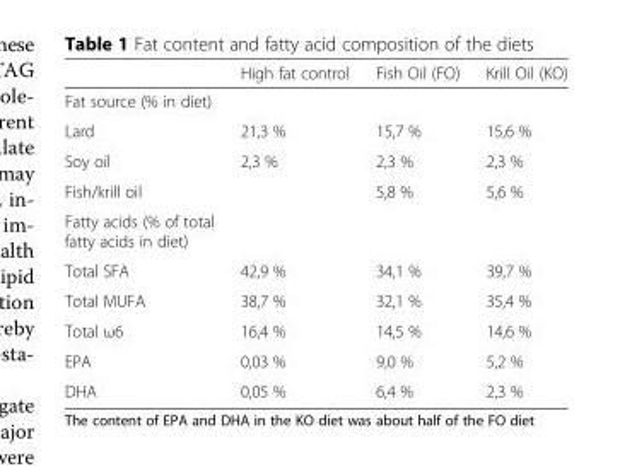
<table><thead><tr><td></td><td>High fat control</td><td>Fish Oil (FO)</td><td>Krill Oil (KO)</td></tr></thead><tbody><tr><td colspan="4">Fat source (% in diet)</td></tr><tr><td>Lard</td><td>21,3 %</td><td>15,7 %</td><td>15,6 %</td></tr><tr><td>Soy oil</td><td>2,3 %</td><td>2,3 %</td><td>2,3 %</td></tr><tr><td>Fish/krill oil</td><td></td><td>5,8 %</td><td>5,6 %</td></tr><tr><td colspan="4">Fatty acids (% of total fatty acids in diet)</td></tr><tr><td>Total SFA</td><td>42,9 %</td><td>34,1 %</td><td>39,7 %</td></tr><tr><td>Total MUFA</td><td>38,7 %</td><td>32,1 %</td><td>35,4 %</td></tr><tr><td>Total ω6</td><td>16,4 %</td><td>14,5 %</td><td>14,6 %</td></tr><tr><td>EPA</td><td>0,03 %</td><td>9,0 %</td><td>5,2 %</td></tr><tr><td>DHA</td><td>0,05 %</td><td>6,4 %</td><td>2,3 %</td></tr></tbody></table>